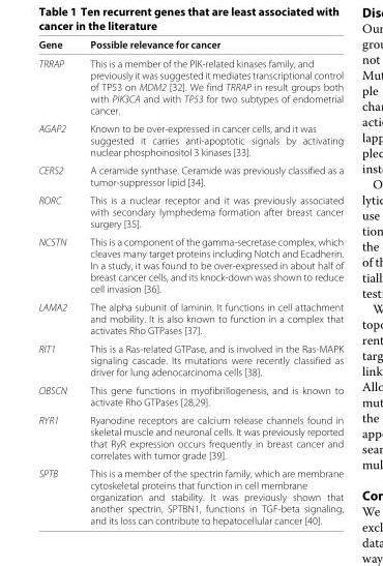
<table><thead><tr><td>Gene</td><td>Possible relevance for cancer</td></tr></thead><tbody><tr><td>TRRAP</td><td>This is a member of the PIK-related kinases family, and previously it was suggested it mediates transcriptional control of TP53 on MDM2 [32]. We find TRRAP in result groups both with PIK3CA and with TP53 for two subtypes of endometrial cancer.</td></tr><tr><td>AGAP2</td><td>Known to be over-expressed in cancer cells, and it was suggested it carries anti-apoptotic signals by activating nuclear phosphoinositol 3 kinases [33].</td></tr><tr><td>CERS2</td><td>A ceramide synthase. Ceramide was previously classified as a tumor-suppressor lipid [34].</td></tr><tr><td>RORC</td><td>This is a nuclear receptor and it was previously associated with secondary lymphedema formation after breast cancer surgery [35].</td></tr><tr><td>NCSTN</td><td>This is a component of the gamma-secretase complex, which cleaves many target proteins including Notch and Ecadherin. In a study, it was found to be over-expressed in about half of breast cancer cells, and its knock-down was shown to reduce cell invasion [36].</td></tr><tr><td>LAMA2</td><td>The alpha subunit of laminin. It functions in cell attachment and mobility. It is also known to function in a complex that activates Rho GTPases [37].</td></tr><tr><td>RIT1</td><td>This is a Ras-related GTPase, and is involved in the Ras-MAPK signaling cascade. Its mutations were recently classified as driver for lung adenocarcinoma cells [38].</td></tr><tr><td>OBSCN</td><td>This gene functions in myofibrillogenesis, and is known to activate Rho GTPases [28,29].</td></tr><tr><td>RYR1</td><td>Ryanodine receptors are calcium release channels found in skeletal muscle and neuronal cells. It was previously reported that RyR expression occurs frequently in breast cancer and correlates with tumor grade [39].</td></tr><tr><td>SPTB</td><td>This is a member of the spectrin family, which are membrane cytoskeletal proteins that function in cell membrane organization and stability. It was previously shown that another spectrin, SPTBN1, functions in TGF-beta signaling, and its loss can contribute to hepatocellular cancer [40].</td></tr></tbody></table>